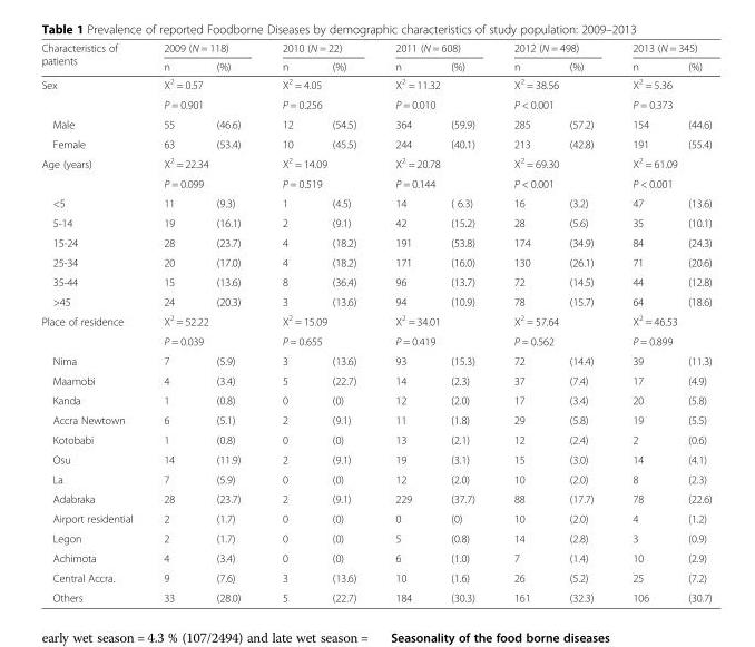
<table><thead><tr><td rowspan="2">Characteristics of patients</td><td colspan="2">2009 (N = 118)</td><td colspan="2">2010 (N = 22)</td><td colspan="2">2011 (N = 608)</td><td colspan="2">2012 (N = 498)</td><td colspan="2">2013 (N = 345)</td></tr><tr><td>n</td><td>(%)</td><td>n</td><td>(%)</td><td>n</td><td>(%)</td><td>n</td><td>(%)</td><td>n</td><td>(%)</td></tr></thead><tbody><tr><td rowspan="2">Sex</td><td colspan="2">X<sup>2</sup> = 0.57</td><td colspan="2">X<sup>2</sup> = 4.05</td><td colspan="2">X<sup>2</sup> = 11.32</td><td colspan="2">X<sup>2</sup> = 38.56</td><td colspan="2">X<sup>2</sup> = 5.36</td></tr><tr><td colspan="2">P = 0.901</td><td colspan="2">P = 0.256</td><td colspan="2">P = 0.010</td><td colspan="2">P &lt; 0.001</td><td colspan="2">P = 0.373</td></tr><tr><td>Male</td><td>55</td><td>(46.6)</td><td>12</td><td>(54.5)</td><td>364</td><td>(59.9)</td><td>285</td><td>(57.2)</td><td>154</td><td>(44.6)</td></tr><tr><td>Female</td><td>63</td><td>(53.4)</td><td>10</td><td>(45.5)</td><td>244</td><td>(40.1)</td><td>213</td><td>(42.8)</td><td>191</td><td>(55.4)</td></tr><tr><td rowspan="2">Age (years)</td><td colspan="2">X<sup>2</sup> = 22.34</td><td colspan="2">X<sup>2</sup> = 14.09</td><td colspan="2">X<sup>2</sup> = 20.78</td><td colspan="2">X<sup>2</sup> = 69.30</td><td colspan="2">X<sup>2</sup> = 61.09</td></tr><tr><td colspan="2">P = 0.099</td><td colspan="2">P = 0.519</td><td colspan="2">P = 0.144</td><td colspan="2">P &lt; 0.001</td><td colspan="2">P &lt; 0.001</td></tr><tr><td>&lt;5</td><td>11</td><td>(9.3)</td><td>1</td><td>(4.5)</td><td>14</td><td>( 6.3)</td><td>16</td><td>(3.2)</td><td>47</td><td>(13.6)</td></tr><tr><td>5-14</td><td>19</td><td>(16.1)</td><td>2</td><td>(9.1)</td><td>42</td><td>(15.2)</td><td>28</td><td>(5.6)</td><td>35</td><td>(10.1)</td></tr><tr><td>15-24</td><td>28</td><td>(23.7)</td><td>4</td><td>(18.2)</td><td>191</td><td>(53.8)</td><td>174</td><td>(34.9)</td><td>84</td><td>(24.3)</td></tr><tr><td>25-34</td><td>20</td><td>(17.0)</td><td>4</td><td>(18.2)</td><td>171</td><td>(16.0)</td><td>130</td><td>(26.1)</td><td>71</td><td>(20.6)</td></tr><tr><td>35-44</td><td>15</td><td>(13.6)</td><td>8</td><td>(36.4)</td><td>96</td><td>(13.7)</td><td>72</td><td>(14.5)</td><td>44</td><td>(12.8)</td></tr><tr><td>&gt;45</td><td>24</td><td>(20.3)</td><td>3</td><td>(13.6)</td><td>94</td><td>(10.9)</td><td>78</td><td>(15.7)</td><td>64</td><td>(18.6)</td></tr><tr><td rowspan="2">Place of residence</td><td colspan="2">X<sup>2</sup> = 52.22</td><td colspan="2">X<sup>2</sup> = 15.09</td><td colspan="2">X<sup>2</sup> = 34.01</td><td colspan="2">X<sup>2</sup> = 57.64</td><td colspan="2">X<sup>2</sup> = 46.53</td></tr><tr><td colspan="2">P = 0.039</td><td colspan="2">P = 0.655</td><td colspan="2">P = 0.419</td><td colspan="2">P = 0.562</td><td colspan="2">P = 0.899</td></tr><tr><td>Nima</td><td>7</td><td>(5.9)</td><td>3</td><td>(13.6)</td><td>93</td><td>(15.3)</td><td>72</td><td>(14.4)</td><td>39</td><td>(11.3)</td></tr><tr><td>Maamobi</td><td>4</td><td>(3.4)</td><td>5</td><td>(22.7)</td><td>14</td><td>(2.3)</td><td>37</td><td>(7.4)</td><td>17</td><td>(4.9)</td></tr><tr><td>Kanda</td><td>1</td><td>(0.8)</td><td>0</td><td>(0)</td><td>12</td><td>(2.0)</td><td>17</td><td>(3.4)</td><td>20</td><td>(5.8)</td></tr><tr><td>Accra Newtown</td><td>6</td><td>(5.1)</td><td>2</td><td>(9.1)</td><td>11</td><td>(1.8)</td><td>29</td><td>(5.8)</td><td>19</td><td>(5.5)</td></tr><tr><td>Kotobabi</td><td>1</td><td>(0.8)</td><td>0</td><td>(0)</td><td>13</td><td>(2.1)</td><td>12</td><td>(2.4)</td><td>2</td><td>(0.6)</td></tr><tr><td>Osu</td><td>14</td><td>(11.9)</td><td>2</td><td>(9.1)</td><td>19</td><td>(3.1)</td><td>15</td><td>(3.0)</td><td>14</td><td>(4.1)</td></tr><tr><td>La</td><td>7</td><td>(5.9)</td><td>0</td><td>(0)</td><td>12</td><td>(2.0)</td><td>10</td><td>(2.0)</td><td>8</td><td>(2.3)</td></tr><tr><td>Adabraka</td><td>28</td><td>(23.7)</td><td>2</td><td>(9.1)</td><td>229</td><td>(37.7)</td><td>88</td><td>(17.7)</td><td>78</td><td>(22.6)</td></tr><tr><td>Airport residential</td><td>2</td><td>(1.7)</td><td>0</td><td>(0)</td><td>0</td><td>(0)</td><td>10</td><td>(2.0)</td><td>4</td><td>(1.2)</td></tr><tr><td>Legon</td><td>2</td><td>(1.7)</td><td>0</td><td>(0)</td><td>5</td><td>(0.8)</td><td>14</td><td>(2.8)</td><td>3</td><td>(0.9)</td></tr><tr><td>Achimota</td><td>4</td><td>(3.4)</td><td>0</td><td>(0)</td><td>6</td><td>(1.0)</td><td>7</td><td>(1.4)</td><td>10</td><td>(2.9)</td></tr><tr><td>Central Accra.</td><td>9</td><td>(7.6)</td><td>3</td><td>(13.6)</td><td>10</td><td>(1.6)</td><td>26</td><td>(5.2)</td><td>25</td><td>(7.2)</td></tr><tr><td>Others</td><td>33</td><td>(28.0)</td><td>5</td><td>(22.7)</td><td>184</td><td>(30.3)</td><td>161</td><td>(32.3)</td><td>106</td><td>(30.7)</td></tr></tbody></table>